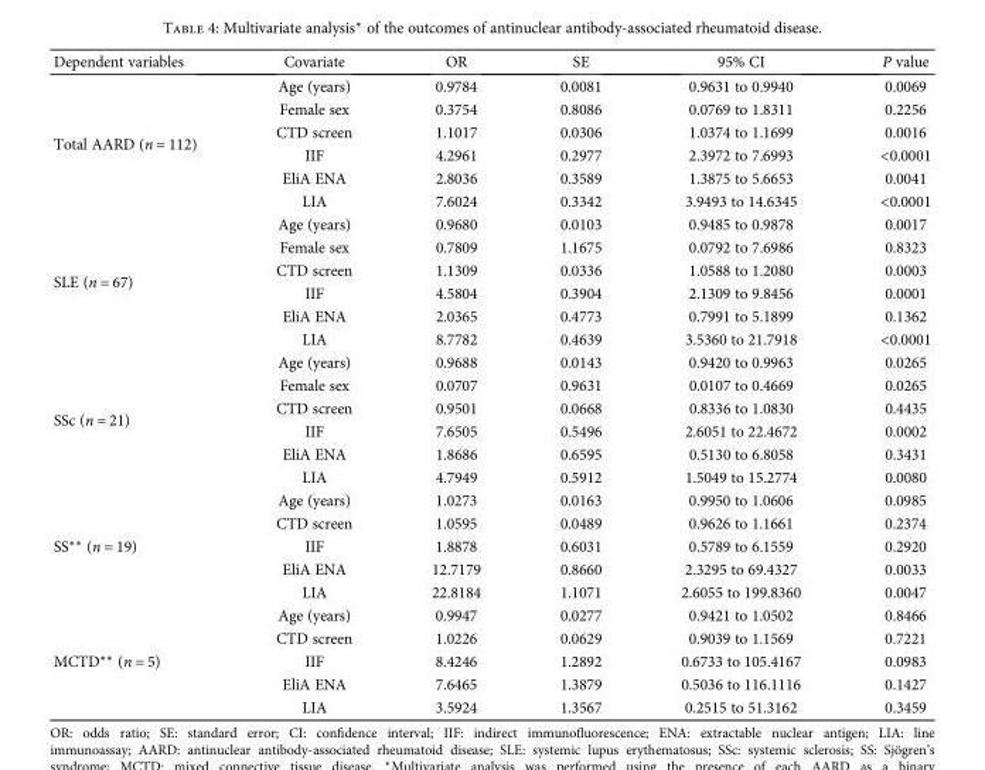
<table><thead><tr><td>Dependent variables</td><td>Covariate</td><td>OR</td><td>SE</td><td>95% CI</td><td>P value</td></tr></thead><tbody><tr><td rowspan="6">Total AARD (n = 112)</td><td>Age (years)</td><td>0.9784</td><td>0.0081</td><td>0.9631 to 0.9940</td><td>0.0069</td></tr><tr><td>Female sex</td><td>0.3754</td><td>0.8086</td><td>0.0769 to 1.8311</td><td>0.2256</td></tr><tr><td>CTD screen</td><td>1.1017</td><td>0.0306</td><td>1.0374 to 1.1699</td><td>0.0016</td></tr><tr><td>IIF</td><td>4.2961</td><td>0.2977</td><td>2.3972 to 7.6993</td><td>&lt;0.0001</td></tr><tr><td>EliA ENA</td><td>2.8036</td><td>0.3589</td><td>1.3875 to 5.6653</td><td>0.0041</td></tr><tr><td>LIA</td><td>7.6024</td><td>0.3342</td><td>3.9493 to 14.6345</td><td>&lt;0.0001</td></tr><tr><td rowspan="6">SLE (n = 67)</td><td>Age (years)</td><td>0.9680</td><td>0.0103</td><td>0.9485 to 0.9878</td><td>0.0017</td></tr><tr><td>Female sex</td><td>0.7809</td><td>1.1675</td><td>0.0792 to 7.6986</td><td>0.8323</td></tr><tr><td>CTD screen</td><td>1.1309</td><td>0.0336</td><td>1.0588 to 1.2080</td><td>0.0003</td></tr><tr><td>IIF</td><td>4.5804</td><td>0.3904</td><td>2.1309 to 9.8456</td><td>0.0001</td></tr><tr><td>EliA ENA</td><td>2.0365</td><td>0.4773</td><td>0.7991 to 5.1899</td><td>0.1362</td></tr><tr><td>LIA</td><td>8.7782</td><td>0.4639</td><td>3.5360 to 21.7918</td><td>&lt;0.0001</td></tr><tr><td rowspan="6">SSc (n = 21)</td><td>Age (years)</td><td>0.9688</td><td>0.0143</td><td>0.9420 to 0.9963</td><td>0.0265</td></tr><tr><td>Female sex</td><td>0.0707</td><td>0.9631</td><td>0.0107 to 0.4669</td><td>0.0265</td></tr><tr><td>CTD screen</td><td>0.9501</td><td>0.0668</td><td>0.8336 to 1.0830</td><td>0.4435</td></tr><tr><td>IIF</td><td>7.6505</td><td>0.5496</td><td>2.6051 to 22.4672</td><td>0.0002</td></tr><tr><td>EliA ENA</td><td>1.8686</td><td>0.6595</td><td>0.5130 to 6.8058</td><td>0.3431</td></tr><tr><td>LIA</td><td>4.7949</td><td>0.5912</td><td>1.5049 to 15.2774</td><td>0.0080</td></tr><tr><td rowspan="5">SS∗∗ (n = 19)</td><td>Age (years)</td><td>1.0273</td><td>0.0163</td><td>0.9950 to 1.0606</td><td>0.0985</td></tr><tr><td>CTD screen</td><td>1.0595</td><td>0.0489</td><td>0.9626 to 1.1661</td><td>0.2374</td></tr><tr><td>IIF</td><td>1.8878</td><td>0.6031</td><td>0.5789 to 6.1559</td><td>0.2920</td></tr><tr><td>EliA ENA</td><td>12.7179</td><td>0.8660</td><td>2.3295 to 69.4327</td><td>0.0033</td></tr><tr><td>LIA</td><td>22.8184</td><td>1.1071</td><td>2.6055 to 199.8360</td><td>0.0047</td></tr><tr><td rowspan="5">MCTD∗∗ (n = 5)</td><td>Age (years)</td><td>0.9947</td><td>0.0277</td><td>0.9421 to 1.0502</td><td>0.8466</td></tr><tr><td>CTD screen</td><td>1.0226</td><td>0.0629</td><td>0.9039 to 1.1569</td><td>0.7221</td></tr><tr><td>IIF</td><td>8.4246</td><td>1.2892</td><td>0.6733 to 105.4167</td><td>0.0983</td></tr><tr><td>EliA ENA</td><td>7.6465</td><td>1.3879</td><td>0.5036 to 116.1116</td><td>0.1427</td></tr><tr><td>LIA</td><td>3.5924</td><td>1.3567</td><td>0.2515 to 51.3162</td><td>0.3459</td></tr></tbody></table>